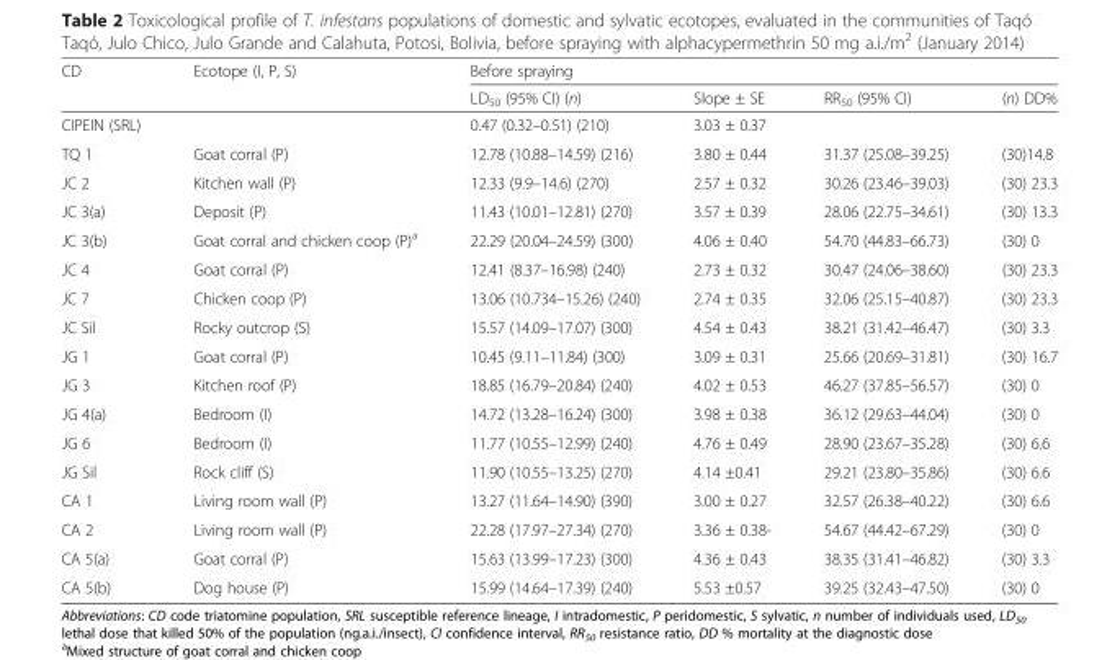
<table><thead><tr><td rowspan="2">CD</td><td rowspan="2">Ecotope (I, P, S)</td><td colspan="4">Before spraying</td></tr><tr><td>LD<sub>50</sub> (95% CI) (n)</td><td>Slope ± SE</td><td>RR<sub>50</sub> (95% CI)</td><td>(n) DD%</td></tr></thead><tbody><tr><td>CIPEIN (SRL)</td><td></td><td>0.47 (0.32–0.51) (210)</td><td>3.03 ± 0.37</td><td></td><td></td></tr><tr><td>TQ 1</td><td>Goat corral (P)</td><td>12.78 (10.88–14.59) (216)</td><td>3.80 ± 0.44</td><td>31.37 (25.08–39.25)</td><td>(30)14.8</td></tr><tr><td>JC 2</td><td>Kitchen wall (P)</td><td>12.33 (9.9–14.6) (270)</td><td>2.57 ± 0.32</td><td>30.26 (23.46–39.03)</td><td>(30) 23.3</td></tr><tr><td>JC 3(a)</td><td>Deposit (P)</td><td>11.43 (10.01–12.81) (270)</td><td>3.57 ± 0.39</td><td>28.06 (22.75–34.61)</td><td>(30) 13.3</td></tr><tr><td>JC 3(b)</td><td>Goat corral and chicken coop (P)<sup>a</sup></td><td>22.29 (20.04–24.59) (300)</td><td>4.06 ± 0.40</td><td>54.70 (44.83–66.73)</td><td>(30) 0</td></tr><tr><td>JC 4</td><td>Goat corral (P)</td><td>12.41 (8.37–16.98) (240)</td><td>2.73 ± 0.32</td><td>30.47 (24.06–38.60)</td><td>(30) 23.3</td></tr><tr><td>JC 7</td><td>Chicken coop (P)</td><td>13.06 (10.734–15.26) (240)</td><td>2.74 ± 0.35</td><td>32.06 (25.15–40.87)</td><td>(30) 23.3</td></tr><tr><td>JC Sil</td><td>Rocky outcrop (S)</td><td>15.57 (14.09–17.07) (300)</td><td>4.54 ± 0.43</td><td>38.21 (31.42–46.47)</td><td>(30) 3.3</td></tr><tr><td>JG 1</td><td>Goat corral (P)</td><td>10.45 (9.11–11.84) (300)</td><td>3.09 ± 0.31</td><td>25.66 (20.69–31.81)</td><td>(30) 16.7</td></tr><tr><td>JG 3</td><td>Kitchen roof (P)</td><td>18.85 (16.79–20.84) (240)</td><td>4.02 ± 0.53</td><td>46.27 (37.85–56.57)</td><td>(30) 0</td></tr><tr><td>JG 4(a)</td><td>Bedroom (I)</td><td>14.72 (13.28–16.24) (300)</td><td>3.98 ± 0.38</td><td>36.12 (29.63–44.04)</td><td>(30) 0</td></tr><tr><td>JG 6</td><td>Bedroom (I)</td><td>11.77 (10.55–12.99) (240)</td><td>4.76 ± 0.49</td><td>28.90 (23.67–35.28)</td><td>(30) 6.6</td></tr><tr><td>JG Sil</td><td>Rock cliff (S)</td><td>11.90 (10.55–13.25) (270)</td><td>4.14 ±0.41</td><td>29.21 (23.80–35.86)</td><td>(30) 6.6</td></tr><tr><td>CA 1</td><td>Living room wall (P)</td><td>13.27 (11.64–14.90) (390)</td><td>3.00 ± 0.27</td><td>32.57 (26.38–40.22)</td><td>(30) 6.6</td></tr><tr><td>CA 2</td><td>Living room wall (P)</td><td>22.28 (17.97–27.34) (270)</td><td>3.36 ± 0.38-</td><td>54.67 (44.42–67.29)</td><td>(30) 0</td></tr><tr><td>CA 5(a)</td><td>Goat corral (P)</td><td>15.63 (13.99–17.23) (300)</td><td>4.36 ± 0.43</td><td>38.35 (31.41–46.82)</td><td>(30) 3.3</td></tr><tr><td>CA 5(b)</td><td>Dog house (P)</td><td>15.99 (14.64–17.39) (240)</td><td>5.53 ±0.57</td><td>39.25 (32.43–47.50)</td><td>(30) 0</td></tr></tbody></table>